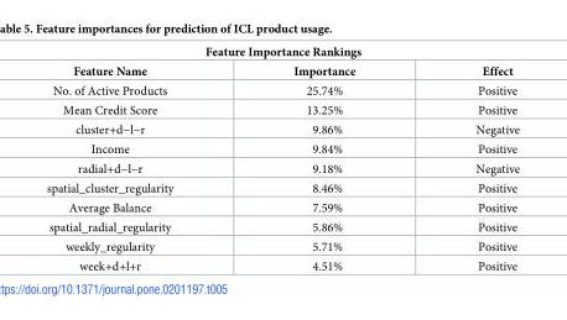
<table><thead><tr><td colspan="3">Feature Importance Rankings</td></tr><tr><td>Feature Name</td><td>Importance</td><td>Effect</td></tr></thead><tbody><tr><td>No. of Active Products</td><td>25.74%</td><td>Positive</td></tr><tr><td>Mean Credit Score</td><td>13.25%</td><td>Positive</td></tr><tr><td>cluster+d−l−r</td><td>9.86%</td><td>Negative</td></tr><tr><td>Income</td><td>9.84%</td><td>Positive</td></tr><tr><td>radial+d−l−r</td><td>9.18%</td><td>Negative</td></tr><tr><td>spatial_cluster_regularity</td><td>8.46%</td><td>Positive</td></tr><tr><td>Average Balance</td><td>7.59%</td><td>Positive</td></tr><tr><td>spatial_radial_regularity</td><td>5.86%</td><td>Positive</td></tr><tr><td>weekly_regularity</td><td>5.71%</td><td>Positive</td></tr><tr><td>week+d+l+r</td><td>4.51%</td><td>Positive</td></tr></tbody></table>